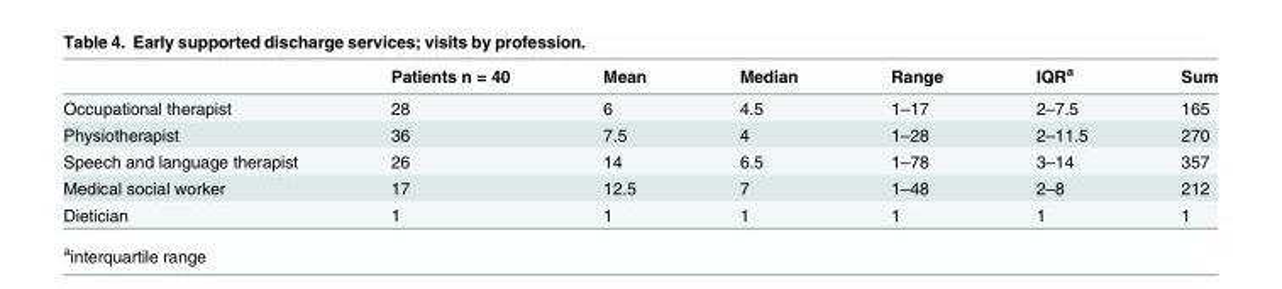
<table><thead><tr><td></td><td>Patients n = 40</td><td>Mean</td><td>Median</td><td>Range</td><td>IQR<sup>a</sup></td><td>Sum</td></tr></thead><tbody><tr><td>Occupational therapist</td><td>28</td><td>6</td><td>4.5</td><td>1–17</td><td>2–7.5</td><td>165</td></tr><tr><td>Physiotherapist</td><td>36</td><td>7.5</td><td>4</td><td>1–28</td><td>2–11.5</td><td>270</td></tr><tr><td>Speech and language therapist</td><td>26</td><td>14</td><td>6.5</td><td>1–78</td><td>3–14</td><td>357</td></tr><tr><td>Medical social worker</td><td>17</td><td>12.5</td><td>7</td><td>1–48</td><td>2–8</td><td>212</td></tr><tr><td>Dietician</td><td>1</td><td>1</td><td>1</td><td>1</td><td>1</td><td>1</td></tr></tbody></table>